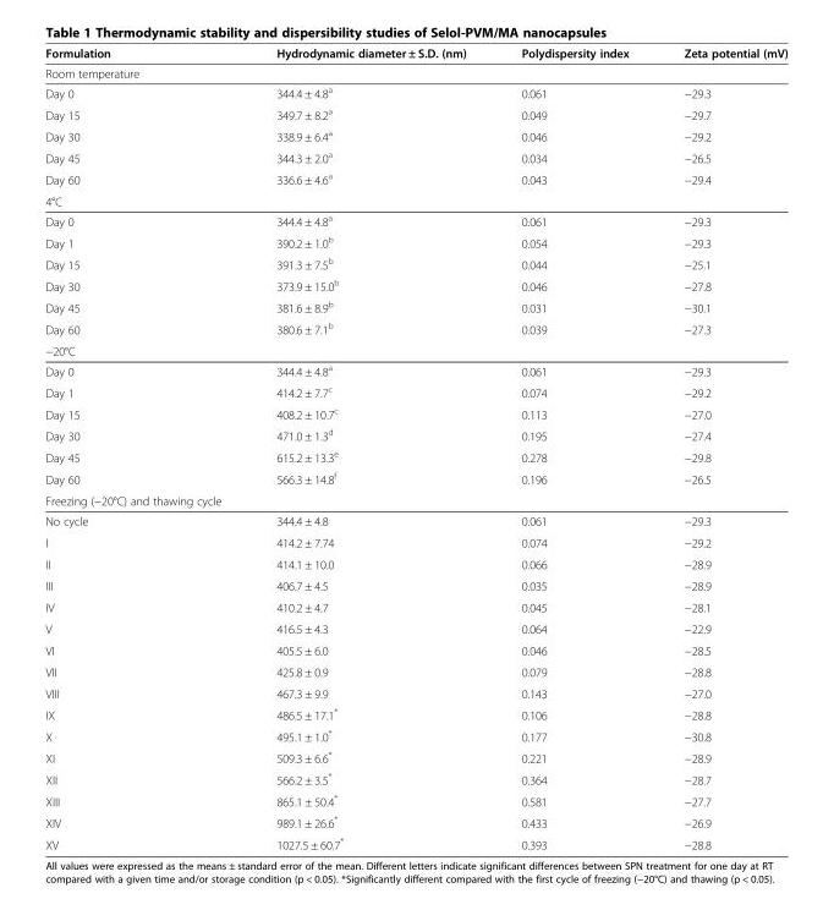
<table><thead><tr><td>Formulation</td><td>Hydrodynamic diameter ± S.D. (nm)</td><td>Polydispersity index</td><td>Zeta potential (mV)</td></tr></thead><tbody><tr><td colspan="4">Room temperature</td></tr><tr><td>Day 0</td><td>344.4 ± 4.8<sup>a</sup></td><td>0.061</td><td>−29.3</td></tr><tr><td>Day 15</td><td>349.7 ± 8.2<sup>a</sup></td><td>0.049</td><td>−29.7</td></tr><tr><td>Day 30</td><td>338.9 ± 6.4<sup>a</sup></td><td>0.046</td><td>−29.2</td></tr><tr><td>Day 45</td><td>344.3 ± 2.0<sup>a</sup></td><td>0.034</td><td>−26.5</td></tr><tr><td>Day 60</td><td>336.6 ± 4.6<sup>a</sup></td><td>0.043</td><td>−29.4</td></tr><tr><td colspan="4">4°C</td></tr><tr><td>Day 0</td><td>344.4 ± 4.8<sup>a</sup></td><td>0.061</td><td>−29.3</td></tr><tr><td>Day 1</td><td>390.2 ± 1.0<sup>b</sup></td><td>0.054</td><td>−29.3</td></tr><tr><td>Day 15</td><td>391.3 ± 7.5<sup>b</sup></td><td>0.044</td><td>−25.1</td></tr><tr><td>Day 30</td><td>373.9 ± 15.0<sup>b</sup></td><td>0.046</td><td>−27.8</td></tr><tr><td>Day 45</td><td>381.6 ± 8.9<sup>b</sup></td><td>0.031</td><td>−30.1</td></tr><tr><td>Day 60</td><td>380.6 ± 7.1<sup>b</sup></td><td>0.039</td><td>−27.3</td></tr><tr><td colspan="4">−20°C</td></tr><tr><td>Day 0</td><td>344.4 ± 4.8<sup>a</sup></td><td>0.061</td><td>−29.3</td></tr><tr><td>Day 1</td><td>414.2 ± 7.7<sup>c</sup></td><td>0.074</td><td>−29.2</td></tr><tr><td>Day 15</td><td>408.2 ± 10.7<sup>c</sup></td><td>0.113</td><td>−27.0</td></tr><tr><td>Day 30</td><td>471.0 ± 1.3<sup>d</sup></td><td>0.195</td><td>−27.4</td></tr><tr><td>Day 45</td><td>615.2 ± 13.3<sup>e</sup></td><td>0.278</td><td>−29.8</td></tr><tr><td>Day 60</td><td>566.3 ± 14.8<sup>f</sup></td><td>0.196</td><td>−26.5</td></tr><tr><td colspan="4">Freezing (−20°C) and thawing cycle</td></tr><tr><td>No cycle</td><td>344.4 ± 4.8</td><td>0.061</td><td>−29.3</td></tr><tr><td>I</td><td>414.2 ± 7.74</td><td>0.074</td><td>−29.2</td></tr><tr><td>II</td><td>414.1 ± 10.0</td><td>0.066</td><td>−28.9</td></tr><tr><td>III</td><td>406.7 ± 4.5</td><td>0.035</td><td>−28.9</td></tr><tr><td>IV</td><td>410.2 ± 4.7</td><td>0.045</td><td>−28.1</td></tr><tr><td>V</td><td>416.5 ± 4.3</td><td>0.064</td><td>−22.9</td></tr><tr><td>VI</td><td>405.5 ± 6.0</td><td>0.046</td><td>−28.5</td></tr><tr><td>VII</td><td>425.8 ± 0.9</td><td>0.079</td><td>−28.8</td></tr><tr><td>VIII</td><td>467.3 ± 9.9</td><td>0.143</td><td>−27.0</td></tr><tr><td>IX</td><td>486.5 ± 17.1*</td><td>0.106</td><td>−28.8</td></tr><tr><td>X</td><td>495.1 ± 1.0*</td><td>0.177</td><td>−30.8</td></tr><tr><td>XI</td><td>509.3 ± 6.6*</td><td>0.221</td><td>−28.9</td></tr><tr><td>XII</td><td>566.2 ± 3.5*</td><td>0.364</td><td>−28.7</td></tr><tr><td>XIII</td><td>865.1 ± 50.4*</td><td>0.581</td><td>−27.7</td></tr><tr><td>XIV</td><td>989.1 ± 26.6*</td><td>0.433</td><td>−26.9</td></tr><tr><td>XV</td><td>1027.5 ± 60.7*</td><td>0.393</td><td>−28.8</td></tr></tbody></table>